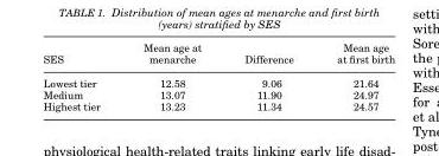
<table><thead><tr><td>SES</td><td>Mean age at menarche</td><td>Difference</td><td>Mean age at first birth</td></tr></thead><tbody><tr><td>Lowest tier</td><td>12.58</td><td>9.06</td><td>21.64</td></tr><tr><td>Medium</td><td>13.07</td><td>11.90</td><td>24.97</td></tr><tr><td>Highest tier</td><td>13.23</td><td>11.34</td><td>24.57</td></tr></tbody></table>